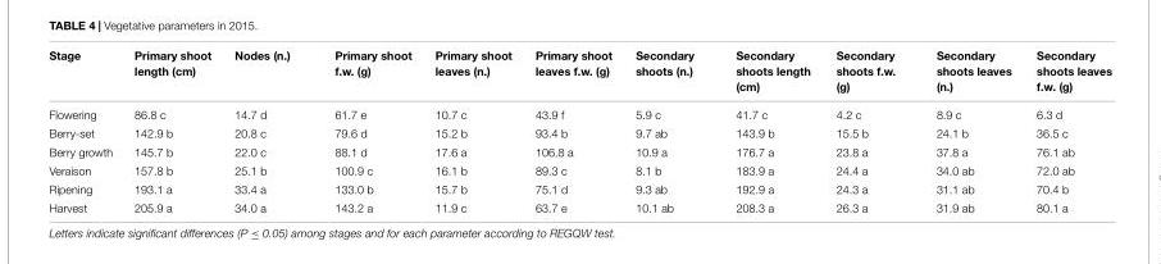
<table><thead><tr><td>Stage</td><td>Primary shoot length (cm)</td><td>Nodes (n.)</td><td>Primary shoot f.w. (g)</td><td>Primary shoot leaves (n.)</td><td>Primary shoot leaves f.w. (g)</td><td>Secondary shoots (n.)</td><td>Secondary shoots length (cm)</td><td>Secondary shoots f.w. (g)</td><td>Secondary shoots leaves (n.)</td><td>Secondary shoots leaves f.w. (g)</td></tr></thead><tbody><tr><td>Flowering</td><td>86.8 c</td><td>14.7 d</td><td>61.7 e</td><td>10.7 c</td><td>43.9 f</td><td>5.9 c</td><td>41.7 c</td><td>4.2 c</td><td>8.9 c</td><td>6.3 d</td></tr><tr><td>Berry-set</td><td>142.9 b</td><td>20.8 c</td><td>79.6 d</td><td>15.2 b</td><td>93.4 b</td><td>9.7 ab</td><td>143.9 b</td><td>15.5 b</td><td>24.1 b</td><td>36.5 c</td></tr><tr><td>Berry growth</td><td>145.7 b</td><td>22.0 c</td><td>88.1 d</td><td>17.6 a</td><td>106.8 a</td><td>10.9 a</td><td>176.7 a</td><td>23.8 a</td><td>37.8 a</td><td>76.1 ab</td></tr><tr><td>Veraison</td><td>157.8 b</td><td>25.1 b</td><td>100.9 c</td><td>16.1 b</td><td>89.3 c</td><td>8.1 b</td><td>183.9 a</td><td>24.4 a</td><td>34.0 ab</td><td>72.0 ab</td></tr><tr><td>Ripening</td><td>193.1 a</td><td>33.4 a</td><td>133.0 b</td><td>15.7 b</td><td>75.1 d</td><td>9.3 ab</td><td>192.9 a</td><td>24.3 a</td><td>31.1 ab</td><td>70.4 b</td></tr><tr><td>Harvest</td><td>205.9 a</td><td>34.0 a</td><td>143.2 a</td><td>11.9 c</td><td>63.7 e</td><td>10.1 ab</td><td>208.3 a</td><td>26.3 a</td><td>31.9 ab</td><td>80.1 a</td></tr></tbody></table>